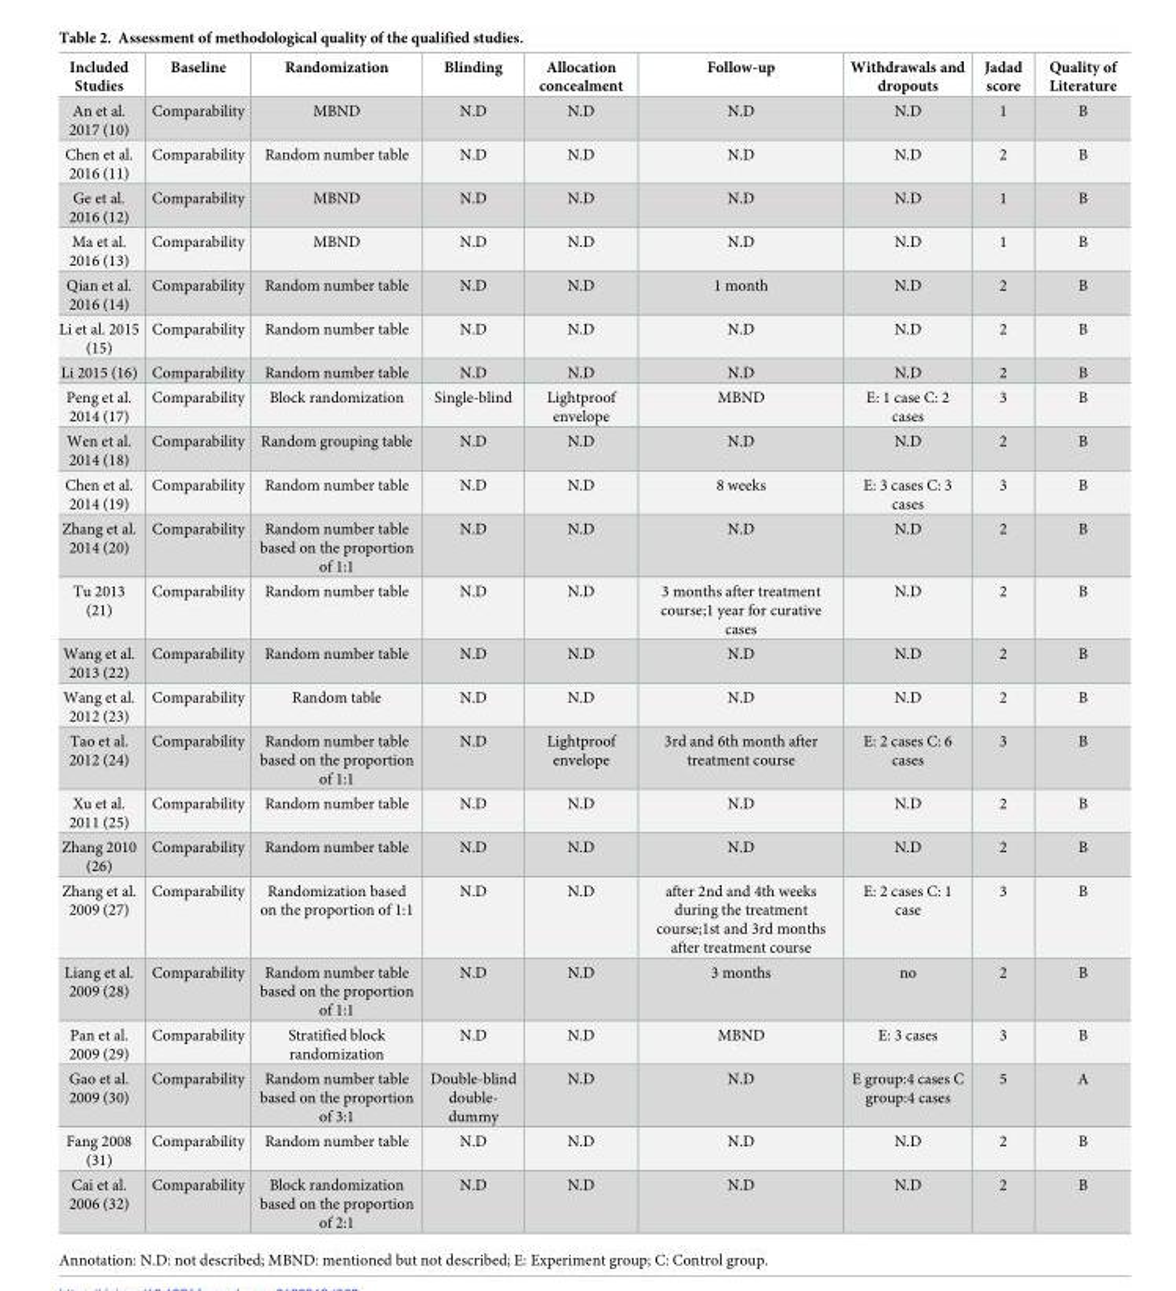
<table><thead><tr><td>Included Studies</td><td>Baseline</td><td>Randomization</td><td>Blinding</td><td>Allocation concealment</td><td>Follow-up</td><td>Withdrawals and dropouts</td><td>Jadad score</td><td>Quality of Literature</td></tr></thead><tbody><tr><td>An et al. 2017 (10)</td><td>Comparability</td><td>MBND</td><td>N.D</td><td>N.D</td><td>N.D</td><td>N.D</td><td>1</td><td>B</td></tr><tr><td>Chen et al. 2016 (11)</td><td>Comparability</td><td>Random number table</td><td>N.D</td><td>N.D</td><td>N.D</td><td>N.D</td><td>2</td><td>B</td></tr><tr><td>Ge et al. 2016 (12)</td><td>Comparability</td><td>MBND</td><td>N.D</td><td>N.D</td><td>N.D</td><td>N.D</td><td>1</td><td>B</td></tr><tr><td>Ma et al. 2016 (13)</td><td>Comparability</td><td>MBND</td><td>N.D</td><td>N.D</td><td>N.D</td><td>N.D</td><td>1</td><td>B</td></tr><tr><td>Qian et al. 2016 (14)</td><td>Comparability</td><td>Random number table</td><td>N.D</td><td>N.D</td><td>1 month</td><td>N.D</td><td>2</td><td>B</td></tr><tr><td>Li et al. 2015 (15)</td><td>Comparability</td><td>Random number table</td><td>N.D</td><td>N.D</td><td>N.D</td><td>N.D</td><td>2</td><td>B</td></tr><tr><td>Li 2015 (16)</td><td>Comparability</td><td>Random number table</td><td>N.D</td><td>N.D</td><td>N.D</td><td>N.D</td><td>2</td><td>B</td></tr><tr><td>Peng et al. 2014 (17)</td><td>Comparability</td><td>Block randomization</td><td>Single-blind</td><td>Lightproof envelope</td><td>MBND</td><td>E: 1 case C: 2 cases</td><td>3</td><td>B</td></tr><tr><td>Wen et al. 2014 (18)</td><td>Comparability</td><td>Random grouping table</td><td>N.D</td><td>N.D</td><td>N.D</td><td>N.D</td><td>2</td><td>B</td></tr><tr><td>Chen et al. 2014 (19)</td><td>Comparability</td><td>Random number table</td><td>N.D</td><td>N.D</td><td>8 weeks</td><td>E: 3 cases C: 3 cases</td><td>3</td><td>B</td></tr><tr><td>Zhang et al. 2014 (20)</td><td>Comparability</td><td>Random number table based on the proportion of 1:1</td><td>N.D</td><td>N.D</td><td>N.D</td><td>N.D</td><td>2</td><td>B</td></tr><tr><td>Tu 2013 (21)</td><td>Comparability</td><td>Random number table</td><td>N.D</td><td>N.D</td><td>3 months after treatment course;1 year for curative cases</td><td>N.D</td><td>2</td><td>B</td></tr><tr><td>Wang et al. 2013 (22)</td><td>Comparability</td><td>Random number table</td><td>N.D</td><td>N.D</td><td>N.D</td><td>N.D</td><td>2</td><td>B</td></tr><tr><td>Wang et al. 2012 (23)</td><td>Comparability</td><td>Random table</td><td>N.D</td><td>N.D</td><td>N.D</td><td>N.D</td><td>2</td><td>B</td></tr><tr><td>Tao et al. 2012 (24)</td><td>Comparability</td><td>Random number table based on the proportion of 1:1</td><td>N.D</td><td>Lightproof envelope</td><td>3rd and 6th month after treatment course</td><td>E: 2 cases C: 6 cases</td><td>3</td><td>B</td></tr><tr><td>Xu et al. 2011 (25)</td><td>Comparability</td><td>Random number table</td><td>N.D</td><td>N.D</td><td>N.D</td><td>N.D</td><td>2</td><td>B</td></tr><tr><td>Zhang 2010 (26)</td><td>Comparability</td><td>Random number table</td><td>N.D</td><td>N.D</td><td>N.D</td><td>N.D</td><td>2</td><td>B</td></tr><tr><td>Zhang et al. 2009 (27)</td><td>Comparability</td><td>Randomization based on the proportion of 1:1</td><td>N.D</td><td>N.D</td><td>after 2nd and 4th weeks during the treatment course;1st and 3rd months after treatment course</td><td>E: 2 cases C: 1 case</td><td>3</td><td>B</td></tr><tr><td>Liang et al. 2009 (28)</td><td>Comparability</td><td>Random number table based on the proportion of 1:1</td><td>N.D</td><td>N.D</td><td>3 months</td><td>no</td><td>2</td><td>B</td></tr><tr><td>Pan et al. 2009 (29)</td><td>Comparability</td><td>Stratified block randomization</td><td>N.D</td><td>N.D</td><td>MBND</td><td>E: 3 cases</td><td>3</td><td>B</td></tr><tr><td>Gao et al. 2009 (30)</td><td>Comparability</td><td>Random number table based on the proportion of 3:1</td><td>Double-blind double- dummy</td><td>N.D</td><td>N.D</td><td>E group:4 cases C group:4 cases</td><td>5</td><td>A</td></tr><tr><td>Fang 2008 (31)</td><td>Comparability</td><td>Random number table</td><td>N.D</td><td>N.D</td><td>N.D</td><td>N.D</td><td>2</td><td>B</td></tr><tr><td>Cai et al. 2006 (32)</td><td>Comparability</td><td>Block randomization based on the proportion of 2:1</td><td>N.D</td><td>N.D</td><td>N.D</td><td>N.D</td><td>2</td><td>B</td></tr></tbody></table>